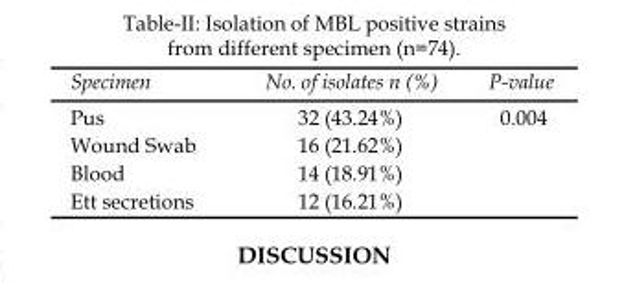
<table><thead><tr><td>Specimen</td><td>No. of isolates n (%)</td><td>P-value</td></tr></thead><tbody><tr><td>Pus</td><td>32 (43.24%)</td><td rowspan="4">0.004</td></tr><tr><td>Wound Swab</td><td>16 (21.62%)</td></tr><tr><td>Blood</td><td>14 (18.91%)</td></tr><tr><td>Ett secretions</td><td>12 (16.21%)</td></tr></tbody></table>